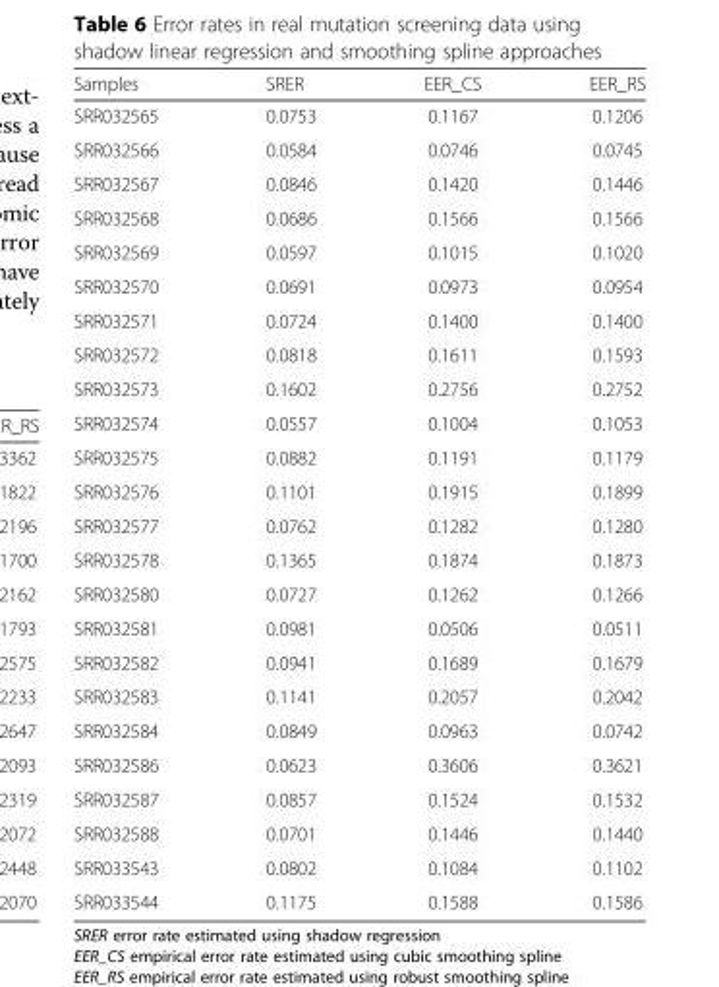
<table><thead><tr><td>Samples</td><td>SRER</td><td>EER_CS</td><td>EER_RS</td></tr></thead><tbody><tr><td>SRR032565</td><td>0.0753</td><td>0.1167</td><td>0.1206</td></tr><tr><td>SRR032566</td><td>0.0584</td><td>0.0746</td><td>0.0745</td></tr><tr><td>SRR032567</td><td>0.0846</td><td>0.1420</td><td>0.1446</td></tr><tr><td>SRR032568</td><td>0.0686</td><td>0.1566</td><td>0.1566</td></tr><tr><td>SRR032569</td><td>0.0597</td><td>0.1015</td><td>0.1020</td></tr><tr><td>SRR032570</td><td>0.0691</td><td>0.0973</td><td>0.0954</td></tr><tr><td>SRR032571</td><td>0.0724</td><td>0.1400</td><td>0.1400</td></tr><tr><td>SRR032572</td><td>0.0818</td><td>0.1611</td><td>0.1593</td></tr><tr><td>SRR032573</td><td>0.1602</td><td>0.2756</td><td>0.2752</td></tr><tr><td>SRR032574</td><td>0.0557</td><td>0.1004</td><td>0.1053</td></tr><tr><td>SRR032575</td><td>0.0882</td><td>0.1191</td><td>0.1179</td></tr><tr><td>SRR032576</td><td>0.1101</td><td>0.1915</td><td>0.1899</td></tr><tr><td>SRR032577</td><td>0.0762</td><td>0.1282</td><td>0.1280</td></tr><tr><td>SRR032578</td><td>0.1365</td><td>0.1874</td><td>0.1873</td></tr><tr><td>SRR032580</td><td>0.0727</td><td>0.1262</td><td>0.1266</td></tr><tr><td>SRR032581</td><td>0.0981</td><td>0.0506</td><td>0.0511</td></tr><tr><td>SRR032582</td><td>0.0941</td><td>0.1689</td><td>0.1679</td></tr><tr><td>SRR032583</td><td>0.1141</td><td>0.2057</td><td>0.2042</td></tr><tr><td>SRR032584</td><td>0.0849</td><td>0.0963</td><td>0.0742</td></tr><tr><td>SRR032586</td><td>0.0623</td><td>0.3606</td><td>0.3621</td></tr><tr><td>SRR032587</td><td>0.0857</td><td>0.1524</td><td>0.1532</td></tr><tr><td>SRR032588</td><td>0.0701</td><td>0.1446</td><td>0.1440</td></tr><tr><td>SRR033543</td><td>0.0802</td><td>0.1084</td><td>0.1102</td></tr><tr><td>SRR033544</td><td>0.1175</td><td>0.1588</td><td>0.1586</td></tr></tbody></table>